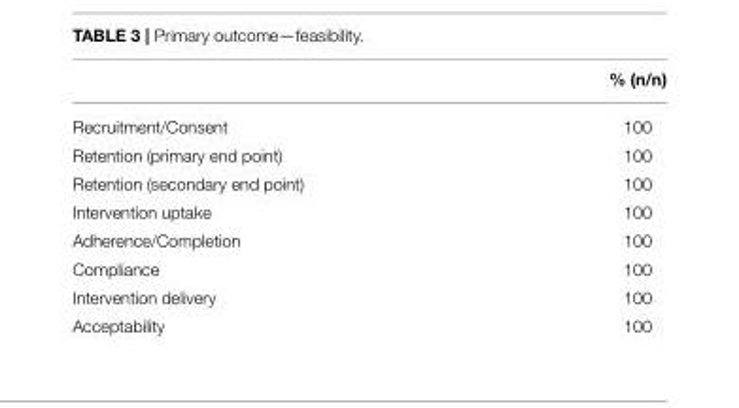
<table><thead><tr><td></td><td>% (n/n)</td></tr></thead><tbody><tr><td>Recruitment/Consent</td><td>100</td></tr><tr><td>Retention (primary end point)</td><td>100</td></tr><tr><td>Retention (secondary end point)</td><td>100</td></tr><tr><td>Intervention uptake</td><td>100</td></tr><tr><td>Adherence/Completion</td><td>100</td></tr><tr><td>Compliance</td><td>100</td></tr><tr><td>Intervention delivery</td><td>100</td></tr><tr><td>Acceptability</td><td>100</td></tr></tbody></table>